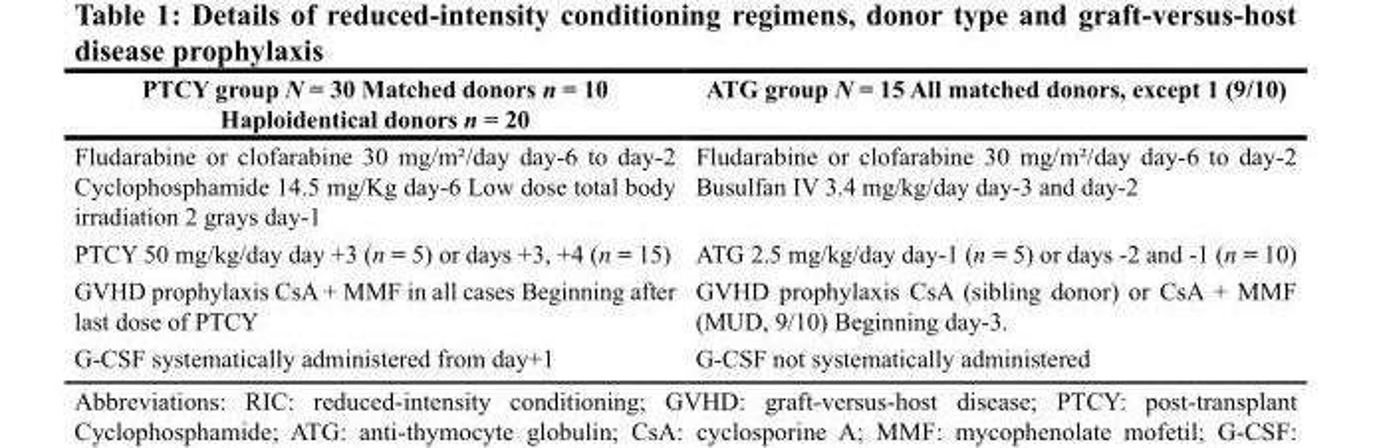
<table><thead><tr><td>PTCY group N = 30 Matched donors n = 10 Haploidentical donors n = 20</td><td>ATG group N = 15 All matched donors, except 1 (9/10)</td></tr></thead><tbody><tr><td>Fludarabine or clofarabine 30 mg/m²/day day-6 to day-2 Cyclophosphamide 14.5 mg/Kg day-6 Low dose total body irradiation 2 grays day-1</td><td>Fludarabine or clofarabine 30 mg/m²/day day-6 to day-2 Busulfan IV 3.4 mg/kg/day day-3 and day-2</td></tr><tr><td>PTCY 50 mg/kg/day day +3 (n = 5) or days +3, +4 (n = 15)</td><td>ATG 2.5 mg/kg/day day-1 (n = 5) or days -2 and -1 (n = 10)</td></tr><tr><td>GVHD prophylaxis CsA + MMF in all cases Beginning after last dose of PTCY</td><td>GVHD prophylaxis CsA (sibling donor) or CsA + MMF (MUD, 9/10) Beginning day-3.</td></tr><tr><td>G-CSF systematically administered from day+1</td><td>G-CSF not systematically administered</td></tr></tbody></table>